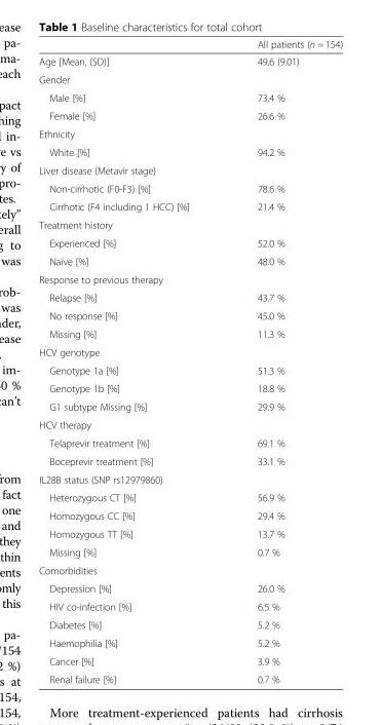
<table><thead><tr><td></td><td>All patients (n = 154)</td></tr></thead><tbody><tr><td>Age [Mean, (SD)]</td><td>49.6 (9.01)</td></tr><tr><td colspan="2">Gender</td></tr><tr><td>Male [%]</td><td>73.4 %</td></tr><tr><td>Female [%]</td><td>26.6 %</td></tr><tr><td colspan="2">Ethnicity</td></tr><tr><td>White [%]</td><td>94.2 %</td></tr><tr><td colspan="2">Liver disease (Metavir stage)</td></tr><tr><td>Non-cirrhotic (F0-F3) [%]</td><td>78.6 %</td></tr><tr><td>Cirrhotic (F4 including 1 HCC) [%]</td><td>21.4 %</td></tr><tr><td colspan="2">Treatment history</td></tr><tr><td>Experienced [%]</td><td>52.0 %</td></tr><tr><td>Naïve [%]</td><td>48.0 %</td></tr><tr><td colspan="2">Response to previous therapy</td></tr><tr><td>Relapse [%]</td><td>43.7 %</td></tr><tr><td>No response [%]</td><td>45.0 %</td></tr><tr><td>Missing [%]</td><td>11.3 %</td></tr><tr><td colspan="2">HCV genotype</td></tr><tr><td>Genotype 1a [%]</td><td>51.3 %</td></tr><tr><td>Genotype 1b [%]</td><td>18.8 %</td></tr><tr><td>G1 subtype Missing [%]</td><td>29.9 %</td></tr><tr><td colspan="2">HCV therapy</td></tr><tr><td>Telaprevir treatment [%]</td><td>69.1 %</td></tr><tr><td>Boceprevir treatment [%]</td><td>33.1 %</td></tr><tr><td colspan="2">IL28B status (SNP rs12979860)</td></tr><tr><td>Heterozygous CT [%]</td><td>56.9 %</td></tr><tr><td>Homozygous CC [%]</td><td>29.4 %</td></tr><tr><td>Homozygous TT [%]</td><td>13.7 %</td></tr><tr><td>Missing [%]</td><td>0.7 %</td></tr><tr><td colspan="2">Comorbidities</td></tr><tr><td>Depression [%]</td><td>26.0 %</td></tr><tr><td>HIV co-infection [%]</td><td>6.5 %</td></tr><tr><td>Diabetes [%]</td><td>5.2 %</td></tr><tr><td>Haemophilia [%]</td><td>5.2 %</td></tr><tr><td>Cancer [%]</td><td>3.9 %</td></tr><tr><td>Renal failure [%]</td><td>0.7 %</td></tr></tbody></table>